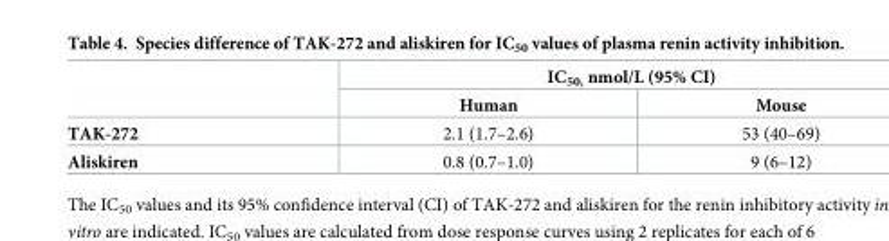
<table><thead><tr><td rowspan="2"></td><td colspan="2">IC<sub>50,</sub> nmol/L (95% CI)</td></tr><tr><td>Human</td><td>Mouse</td></tr></thead><tbody><tr><td>TAK-272</td><td>2.1 (1.7–2.6)</td><td>53 (40–69)</td></tr><tr><td>Aliskiren</td><td>0.8 (0.7–1.0)</td><td>9 (6–12)</td></tr></tbody></table>